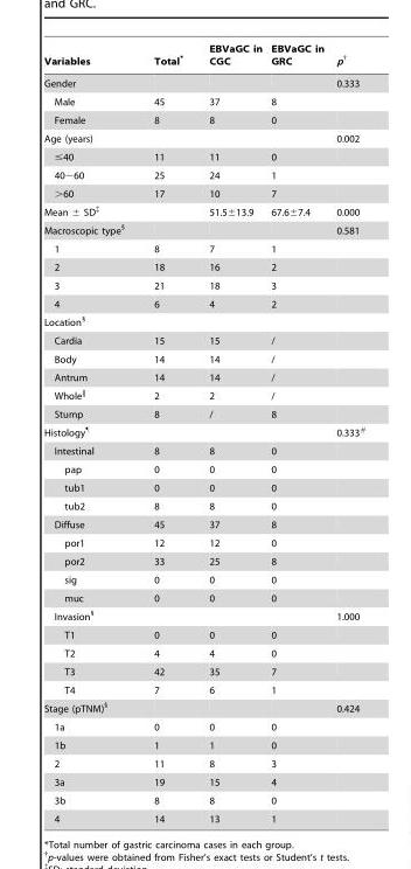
<table><thead><tr><td>Variables</td><td>Total*</td><td>EBVaGC in CGC</td><td>EBVaGC in GRC</td><td>p†</td></tr></thead><tbody><tr><td>Gender</td><td></td><td></td><td></td><td>0.333</td></tr><tr><td>Male</td><td>45</td><td>37</td><td>8</td><td></td></tr><tr><td>Female</td><td>8</td><td>8</td><td>0</td><td></td></tr><tr><td>Age (years)</td><td></td><td></td><td></td><td>0.002</td></tr><tr><td>≤40</td><td>11</td><td>11</td><td>0</td><td></td></tr><tr><td>40∼60</td><td>25</td><td>24</td><td>1</td><td></td></tr><tr><td>&gt;60</td><td>17</td><td>10</td><td>7</td><td></td></tr><tr><td>Mean ± SD‡</td><td></td><td>51.5±13.9</td><td>67.6±7.4</td><td>0.000</td></tr><tr><td>Macroscopic type§</td><td></td><td></td><td></td><td>0.581</td></tr><tr><td>1</td><td>8</td><td>7</td><td>1</td><td></td></tr><tr><td>2</td><td>18</td><td>16</td><td>2</td><td></td></tr><tr><td>3</td><td>21</td><td>18</td><td>3</td><td></td></tr><tr><td>4</td><td>6</td><td>4</td><td>2</td><td></td></tr><tr><td colspan="5">Location§</td></tr><tr><td>Cardia</td><td>15</td><td>15</td><td>/</td><td></td></tr><tr><td>Body</td><td>14</td><td>14</td><td>/</td><td></td></tr><tr><td>Antrum</td><td>14</td><td>14</td><td>/</td><td></td></tr><tr><td>Whole||</td><td>2</td><td>2</td><td>/</td><td></td></tr><tr><td>Stump</td><td>8</td><td>/</td><td>8</td><td></td></tr><tr><td>Histology¶</td><td></td><td></td><td></td><td>0.333#</td></tr><tr><td>Intestinal</td><td>8</td><td>8</td><td>0</td><td></td></tr><tr><td>pap</td><td>0</td><td>0</td><td>0</td><td></td></tr><tr><td>tub1</td><td>0</td><td>0</td><td>0</td><td></td></tr><tr><td>tub2</td><td>8</td><td>8</td><td>0</td><td></td></tr><tr><td>Diffuse</td><td>45</td><td>37</td><td>8</td><td></td></tr><tr><td>por1</td><td>12</td><td>12</td><td>0</td><td></td></tr><tr><td>por2</td><td>33</td><td>25</td><td>8</td><td></td></tr><tr><td>sig</td><td>0</td><td>0</td><td>0</td><td></td></tr><tr><td>muc</td><td>0</td><td>0</td><td>0</td><td></td></tr><tr><td>Invasion§</td><td></td><td></td><td></td><td>1.000</td></tr><tr><td>T1</td><td>0</td><td>0</td><td>0</td><td></td></tr><tr><td>T2</td><td>4</td><td>4</td><td>0</td><td></td></tr><tr><td>T3</td><td>42</td><td>35</td><td>7</td><td></td></tr><tr><td>T4</td><td>7</td><td>6</td><td>1</td><td></td></tr><tr><td>Stage (pTNM)§</td><td></td><td></td><td></td><td>0.424</td></tr><tr><td>1a</td><td>0</td><td>0</td><td>0</td><td></td></tr><tr><td>1b</td><td>1</td><td>1</td><td>0</td><td></td></tr><tr><td>2</td><td>11</td><td>8</td><td>3</td><td></td></tr><tr><td>3a</td><td>19</td><td>15</td><td>4</td><td></td></tr><tr><td>3b</td><td>8</td><td>8</td><td>0</td><td></td></tr><tr><td>4</td><td>14</td><td>13</td><td>1</td><td></td></tr></tbody></table>